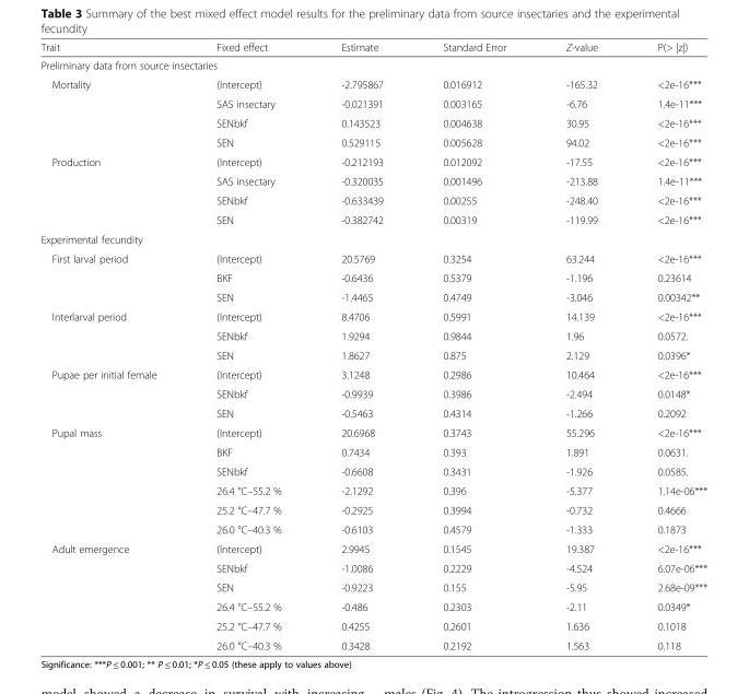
<table><thead><tr><td>Trait</td><td>Fixed effect</td><td>Estimate</td><td>Standard Error</td><td>Z-value</td><td>P(&gt; |z|)</td></tr></thead><tbody><tr><td colspan="6">Preliminary data from source insectaries</td></tr><tr><td rowspan="4">Mortality</td><td>(Intercept)</td><td>-2.795867</td><td>0.016912</td><td>-165.32</td><td>&lt;2e-16***</td></tr><tr><td>SAS insectary</td><td>-0.021391</td><td>0.003165</td><td>-6.76</td><td>1.4e-11***</td></tr><tr><td>SENbkf</td><td>0.143523</td><td>0.004638</td><td>30.95</td><td>&lt;2e-16***</td></tr><tr><td>SEN</td><td>0.529115</td><td>0.005628</td><td>94.02</td><td>&lt;2e-16***</td></tr><tr><td rowspan="4">Production</td><td>(Intercept)</td><td>-0.212193</td><td>0.012092</td><td>-17.55</td><td>&lt;2e-16***</td></tr><tr><td>SAS insectary</td><td>-0.320035</td><td>0.001496</td><td>-213.88</td><td>1.4e-11***</td></tr><tr><td>SENbkf</td><td>-0.633439</td><td>0.00255</td><td>-248.40</td><td>&lt;2e-16***</td></tr><tr><td>SEN</td><td>-0.382742</td><td>0.00319</td><td>-119.99</td><td>&lt;2e-16***</td></tr><tr><td colspan="6">Experimental fecundity</td></tr><tr><td rowspan="3">First larval period</td><td>(Intercept)</td><td>20.5769</td><td>0.3254</td><td>63.244</td><td>&lt;2e-16***</td></tr><tr><td>BKF</td><td>-0.6436</td><td>0.5379</td><td>-1.196</td><td>0.23614</td></tr><tr><td>SEN</td><td>-1.4465</td><td>0.4749</td><td>-3.046</td><td>0.00342**</td></tr><tr><td rowspan="3">Interlarval period</td><td>(Intercept)</td><td>8.4706</td><td>0.5991</td><td>14.139</td><td>&lt;2e-16***</td></tr><tr><td>SENbkf</td><td>1.9294</td><td>0.9844</td><td>1.96</td><td>0.0572.</td></tr><tr><td>SEN</td><td>1.8627</td><td>0.875</td><td>2.129</td><td>0.0396*</td></tr><tr><td rowspan="3">Pupae per initial female</td><td>(Intercept)</td><td>3.1248</td><td>0.2986</td><td>10.464</td><td>&lt;2e-16***</td></tr><tr><td>SENbkf</td><td>-0.9939</td><td>0.3986</td><td>-2.494</td><td>0.0148*</td></tr><tr><td>SEN</td><td>-0.5463</td><td>0.4314</td><td>-1.266</td><td>0.2092</td></tr><tr><td rowspan="6">Pupal mass</td><td>(Intercept)</td><td>20.6968</td><td>0.3743</td><td>55.296</td><td>&lt;2e-16***</td></tr><tr><td>BKF</td><td>0.7434</td><td>0.393</td><td>1.891</td><td>0.0631.</td></tr><tr><td>SENbkf</td><td>-0.6608</td><td>0.3431</td><td>-1.926</td><td>0.0585.</td></tr><tr><td>26.4 °C–55.2 %</td><td>-2.1292</td><td>0.396</td><td>-5.377</td><td>1.14e-06***</td></tr><tr><td>25.2 °C–47.7 %</td><td>-0.2925</td><td>0.3994</td><td>-0.732</td><td>0.4666</td></tr><tr><td>26.0 °C–40.3 %</td><td>-0.6103</td><td>0.4579</td><td>-1.333</td><td>0.1873</td></tr><tr><td rowspan="6">Adult emergence</td><td>(Intercept)</td><td>2.9945</td><td>0.1545</td><td>19.387</td><td>&lt;2e-16***</td></tr><tr><td>SENbkf</td><td>-1.0086</td><td>0.2229</td><td>-4.524</td><td>6.07e-06***</td></tr><tr><td>SEN</td><td>-0.9223</td><td>0.155</td><td>-5.95</td><td>2.68e-09***</td></tr><tr><td>26.4 °C–55.2 %</td><td>-0.486</td><td>0.2303</td><td>-2.11</td><td>0.0349*</td></tr><tr><td>25.2 °C–47.7 %</td><td>0.4255</td><td>0.2601</td><td>1.636</td><td>0.1018</td></tr><tr><td>26.0 °C–40.3 %</td><td>0.3428</td><td>0.2192</td><td>1.563</td><td>0.118</td></tr></tbody></table>